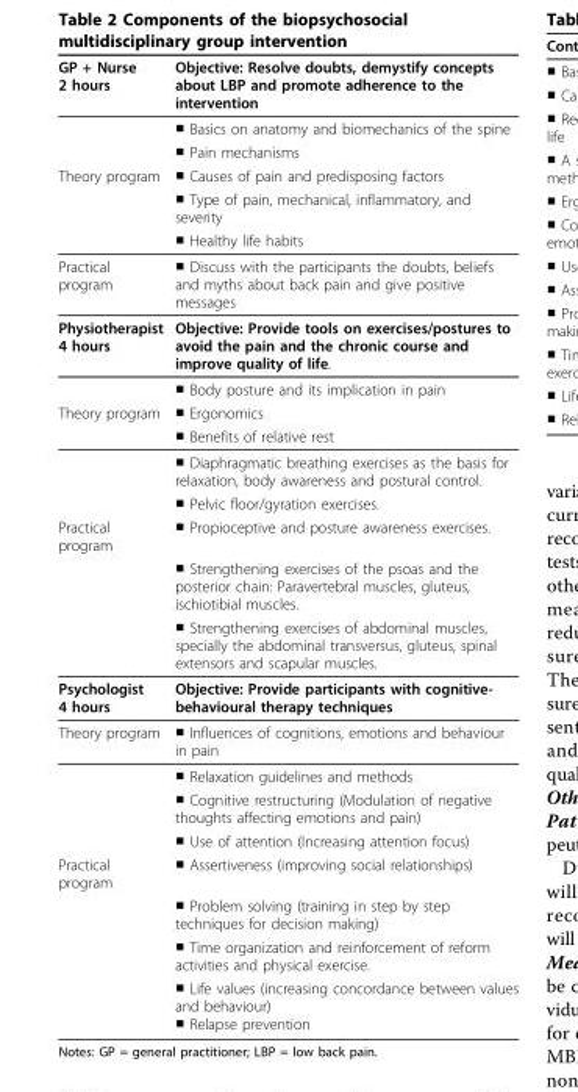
<table><thead><tr><td>GP + Nurse 2 hours</td><td>Objective: Resolve doubts, demystify concepts about LBP and promote adherence to the intervention</td></tr></thead><tbody><tr><td></td><td>■ Basics on anatomy and biomechanics of the spine</td></tr><tr><td></td><td>■ Pain mechanisms</td></tr><tr><td rowspan="3">Theory program</td><td>■ Causes of pain and predisposing factors</td></tr><tr><td>■ Type of pain, mechanical, inflammatory, and severity</td></tr><tr><td>■ Healthy life habits</td></tr><tr><td>Practical program</td><td>■ Discuss with the participants the doubts, beliefs and myths about back pain and give positive messages</td></tr><tr><td rowspan="2">Physiotherapist 4 hours</td><td>Objective: Provide tools on exercises/postures to avoid the pain and the chronic course and improve quality of life.</td></tr><tr><td>■ Body posture and its implication in pain</td></tr><tr><td rowspan="4">Theory program</td><td>■ Ergonomics</td></tr><tr><td>■ Benefits of relative rest</td></tr><tr><td>■ Diaphragmatic breathing exercises as the basis for relaxation, body awareness and postural control.</td></tr><tr><td>■ Pelvic floor/gyration exercises.</td></tr><tr><td rowspan="3">Practical program</td><td>■ Propioceptive and posture awareness exercises.</td></tr><tr><td>■ Strengthening exercises of the psoas and the posterior chain: Paravertebral muscles, gluteus, ischiotibial muscles.</td></tr><tr><td>■ Strengthening exercises of abdominal muscles, specially the abdominal transversus, gluteus, spinal extensors and scapular muscles.</td></tr><tr><td>Psychologist 4 hours</td><td>Objective: Provide participants with cognitive- behavioural therapy techniques</td></tr><tr><td rowspan="4">Theory program</td><td>■ Influences of cognitions, emotions and behaviour in pain</td></tr><tr><td>■ Relaxation guidelines and methods</td></tr><tr><td>■ Cognitive restructuring (Modulation of negative thoughts affecting emotions and pain)</td></tr><tr><td>■ Use of attention (Increasing attention focus)</td></tr><tr><td rowspan="4">Practical program</td><td>■ Assertiveness (improving social relationships)</td></tr><tr><td>■ Problem solving (training in step by step techniques for decision making)</td></tr><tr><td>■ Time organization and reinforcement of reform activities and physical exercise.</td></tr><tr><td>■ Life values (increasing concordance between values and behaviour) ■ Relapse prevention</td></tr></tbody></table>